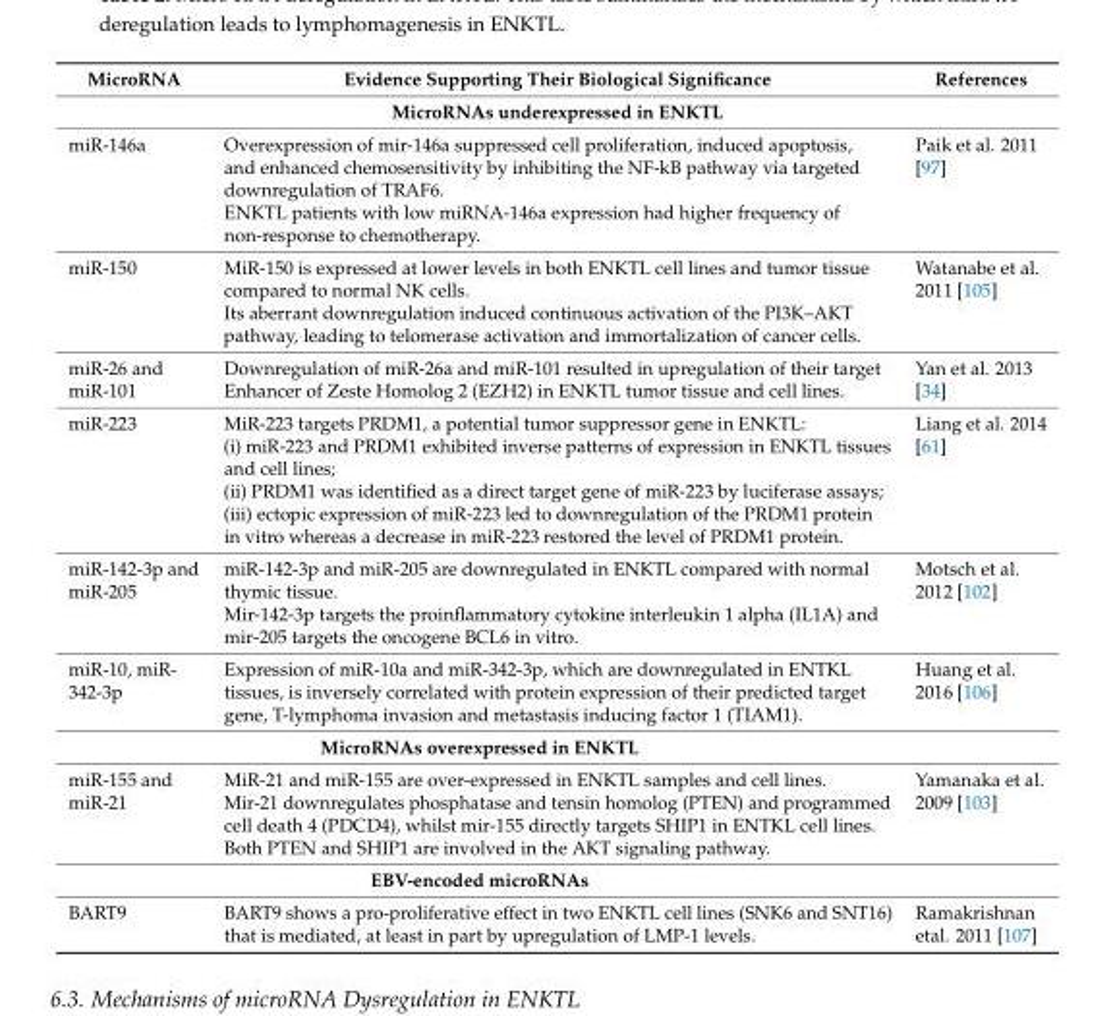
<table><thead><tr><td>MicroRNA</td><td>Evidence Supporting Their Biological Significance</td><td>References</td></tr></thead><tbody><tr><td colspan="3">MicroRNAs underexpressed in ENKTL</td></tr><tr><td>miR-146a</td><td>Overexpression of mir-146a suppressed cell proliferation, induced apoptosis, and enhanced chemosensitivity by inhibiting the NF-kB pathway via targeted downregulation of TRAF6. ENKTL patients with low miRNA-146a expression had higher frequency of non-response to chemotherapy.</td><td>Paik et al. 2011 [97]</td></tr><tr><td>miR-150</td><td>MiR-150 is expressed at lower levels in both ENKTL cell lines and tumor tissue compared to normal NK cells. Its aberrant downregulation induced continuous activation of the PI3K–AKT pathway, leading to telomerase activation and immortalization of cancer cells.</td><td>Watanabe et al. 2011 [105]</td></tr><tr><td>miR-26 and miR-101</td><td>Downregulation of miR-26a and miR-101 resulted in upregulation of their target Enhancer of Zeste Homolog 2 (EZH2) in ENKTL tumor tissue and cell lines.</td><td>Yan et al. 2013 [34]</td></tr><tr><td>miR-223</td><td>MiR-223 targets PRDM1, a potential tumor suppressor gene in ENKTL: (i) miR-223 and PRDM1 exhibited inverse patterns of expression in ENKTL tissues and cell lines; (ii) PRDM1 was identified as a direct target gene of miR-223 by luciferase assays; (iii) ectopic expression of miR-223 led to downregulation of the PRDM1 protein in vitro whereas a decrease in miR-223 restored the level of PRDM1 protein.</td><td>Liang et al. 2014 [61]</td></tr><tr><td>miR-142-3p and miR-205</td><td>miR-142-3p and miR-205 are downregulated in ENKTL compared with normal thymic tissue. Mir-142-3p targets the proinflammatory cytokine interleukin 1 alpha (IL1A) and mir-205 targets the oncogene BCL6 in vitro.</td><td>Motsch et al. 2012 [102]</td></tr><tr><td>miR-10, miR- 342-3p</td><td>Expression of miR-10a and miR-342-3p, which are downregulated in ENTKL tissues, is inversely correlated with protein expression of their predicted target gene, T-lymphoma invasion and metastasis inducing factor 1 (TIAM1).</td><td>Huang et al. 2016 [106]</td></tr><tr><td colspan="3">MicroRNAs overexpressed in ENKTL</td></tr><tr><td>miR-155 and miR-21</td><td>MiR-21 and miR-155 are over-expressed in ENKTL samples and cell lines. Mir-21 downregulates phosphatase and tensin homolog (PTEN) and programmed cell death 4 (PDCD4), whilst mir-155 directly targets SHIP1 in ENTKL cell lines. Both PTEN and SHIP1 are involved in the AKT signaling pathway.</td><td>Yamanaka et al. 2009 [103]</td></tr><tr><td colspan="3">EBV-encoded microRNAs</td></tr><tr><td>BART9</td><td>BART9 shows a pro-proliferative effect in two ENKTL cell lines (SNK6 and SNT16) that is mediated, at least in part by upregulation of LMP-1 levels.</td><td>Ramakrishnan etal. 2011 [107]</td></tr></tbody></table>